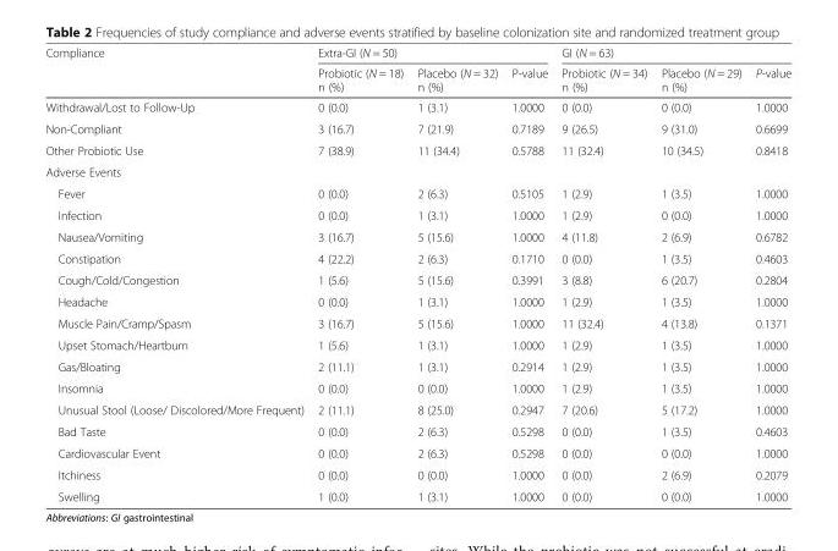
<table><thead><tr><td rowspan="2">Compliance</td><td colspan="3">Extra-GI (N = 50)</td><td colspan="3">GI (N = 63)</td></tr><tr><td>Probiotic (N = 18) n (%)</td><td>Placebo (N = 32) n (%)</td><td>P-value</td><td>Probiotic (N = 34) n (%)</td><td>Placebo (N = 29) n (%)</td><td>P-value</td></tr></thead><tbody><tr><td>Withdrawal/Lost to Follow-Up</td><td>0 (0.0)</td><td>1 (3.1)</td><td>1.0000</td><td>0 (0.0)</td><td>0 (0.0)</td><td>1.0000</td></tr><tr><td>Non-Compliant</td><td>3 (16.7)</td><td>7 (21.9)</td><td>0.7189</td><td>9 (26.5)</td><td>9 (31.0)</td><td>0.6699</td></tr><tr><td>Other Probiotic Use</td><td>7 (38.9)</td><td>11 (34.4)</td><td>0.5788</td><td>11 (32.4)</td><td>10 (34.5)</td><td>0.8418</td></tr><tr><td colspan="7">Adverse Events</td></tr><tr><td>Fever</td><td>0 (0.0)</td><td>2 (6.3)</td><td>0.5105</td><td>1 (2.9)</td><td>1 (3.5)</td><td>1.0000</td></tr><tr><td>Infection</td><td>0 (0.0)</td><td>1 (3.1)</td><td>1.0000</td><td>1 (2.9)</td><td>0 (0.0)</td><td>1.0000</td></tr><tr><td>Nausea/Vomiting</td><td>3 (16.7)</td><td>5 (15.6)</td><td>1.0000</td><td>4 (11.8)</td><td>2 (6.9)</td><td>0.6782</td></tr><tr><td>Constipation</td><td>4 (22.2)</td><td>2 (6.3)</td><td>0.1710</td><td>0 (0.0)</td><td>1 (3.5)</td><td>0.4603</td></tr><tr><td>Cough/Cold/Congestion</td><td>1 (5.6)</td><td>5 (15.6)</td><td>0.3991</td><td>3 (8.8)</td><td>6 (20.7)</td><td>0.2804</td></tr><tr><td>Headache</td><td>0 (0.0)</td><td>1 (3.1)</td><td>1.0000</td><td>1 (2.9)</td><td>1 (3.5)</td><td>1.0000</td></tr><tr><td>Muscle Pain/Cramp/Spasm</td><td>3 (16.7)</td><td>5 (15.6)</td><td>1.0000</td><td>11 (32.4)</td><td>4 (13.8)</td><td>0.1371</td></tr><tr><td>Upset Stomach/Heartburn</td><td>1 (5.6)</td><td>1 (3.1)</td><td>1.0000</td><td>1 (2.9)</td><td>1 (3.5)</td><td>1.0000</td></tr><tr><td>Gas/Bloating</td><td>2 (11.1)</td><td>1 (3.1)</td><td>0.2914</td><td>1 (2.9)</td><td>1 (3.5)</td><td>1.0000</td></tr><tr><td>Insomnia</td><td>0 (0.0)</td><td>0 (0.0)</td><td>1.0000</td><td>1 (2.9)</td><td>1 (3.5)</td><td>1.0000</td></tr><tr><td>Unusual Stool (Loose/ Discolored/More Frequent)</td><td>2 (11.1)</td><td>8 (25.0)</td><td>0.2947</td><td>7 (20.6)</td><td>5 (17.2)</td><td>1.0000</td></tr><tr><td>Bad Taste</td><td>0 (0.0)</td><td>2 (6.3)</td><td>0.5298</td><td>0 (0.0)</td><td>1 (3.5)</td><td>0.4603</td></tr><tr><td>Cardiovascular Event</td><td>0 (0.0)</td><td>2 (6.3)</td><td>0.5298</td><td>0 (0.0)</td><td>0 (0.0)</td><td>1.0000</td></tr><tr><td>Itchiness</td><td>0 (0.0)</td><td>0 (0.0)</td><td>1.0000</td><td>0 (0.0)</td><td>2 (6.9)</td><td>0.2079</td></tr><tr><td>Swelling</td><td>1 (0.0)</td><td>1 (3.1)</td><td>1.0000</td><td>0 (0.0)</td><td>0 (0.0)</td><td>1.0000</td></tr></tbody></table>